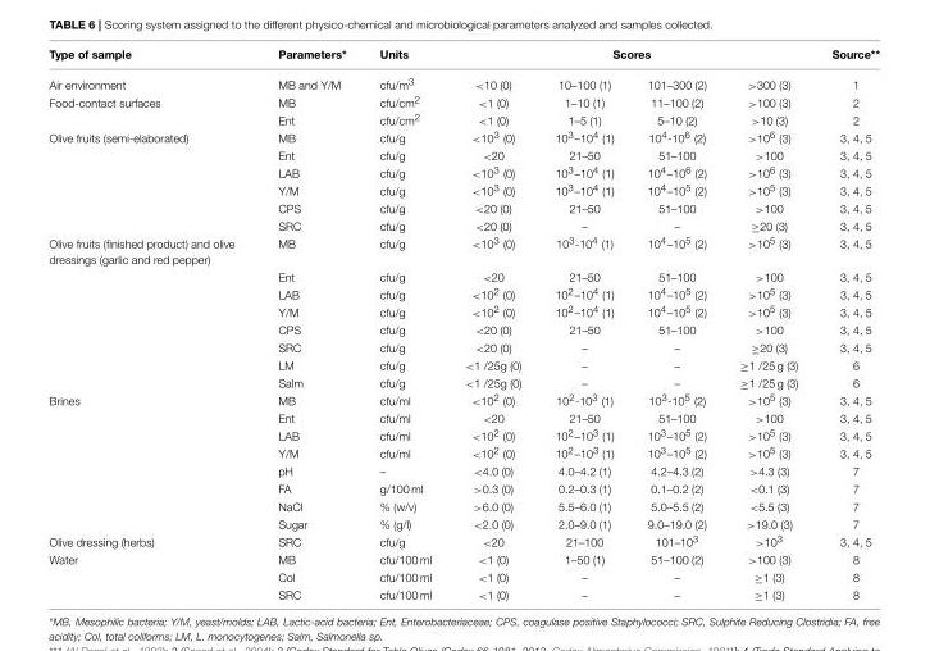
<table><thead><tr><td rowspan="2">Type of sample Air environment</td><td rowspan="2">Parameters* MB and Y/M</td><td rowspan="2">Units cfu/m<sup>3</sup></td><td colspan="4">Scores</td><td rowspan="2">Source** 1</td></tr><tr><td>&lt;10 (0)</td><td>10–100 (1)</td><td>101–300 (2)</td><td>&gt;300 (3)</td></tr></thead><tbody><tr><td rowspan="2">Food-contact surfaces</td><td>MB</td><td>cfu/cm<sup>2</sup></td><td>&lt;1 (0)</td><td>1–10 (1)</td><td>11–100 (2)</td><td>&gt;100 (3)</td><td>2</td></tr><tr><td>Ent</td><td>cfu/cm<sup>2</sup></td><td>&lt;1 (0)</td><td>1–5 (1)</td><td>5–10 (2)</td><td>&gt;10 (3)</td><td>2</td></tr><tr><td rowspan="6">Olive fruits (semi-elaborated)</td><td>MB</td><td>cfu/g</td><td>&lt;10<sup>3</sup> (0)</td><td>10<sup>3</sup>–10<sup>4</sup> (1)</td><td>10<sup>4</sup>-10<sup>6</sup> (2)</td><td>&gt;10<sup>6</sup> (3)</td><td>3, 4, 5</td></tr><tr><td>Ent</td><td>cfu/g</td><td>&lt;20</td><td>21–50</td><td>51–100</td><td>&gt;100</td><td>3, 4, 5</td></tr><tr><td>LAB</td><td>cfu/g</td><td>&lt;10<sup>3</sup> (0)</td><td>10<sup>3</sup>–10<sup>4</sup> (1)</td><td>10<sup>4</sup>–10<sup>6</sup> (2)</td><td>&gt;10<sup>6</sup> (3)</td><td>3, 4, 5</td></tr><tr><td>Y/M</td><td>cfu/g</td><td>&lt;10<sup>3</sup> (0)</td><td>10<sup>3</sup>–10<sup>4</sup> (1)</td><td>10<sup>4</sup>–10<sup>5</sup> (2)</td><td>&gt;10<sup>5</sup> (3)</td><td>3, 4, 5</td></tr><tr><td>CPS</td><td>cfu/g</td><td>&lt;20 (0)</td><td>21–50</td><td>51–100</td><td>&gt;100</td><td>3, 4, 5</td></tr><tr><td>SRC</td><td>cfu/g</td><td>&lt;20 (0)</td><td>–</td><td>–</td><td>≥20 (3)</td><td>3, 4, 5</td></tr><tr><td rowspan="8">Olive fruits (finished product) and olive dressings (garlic and red pepper)</td><td>MB</td><td>cfu/g</td><td>&lt;10<sup>3</sup> (0)</td><td>10<sup>3</sup>-10<sup>4</sup> (1)</td><td>10<sup>4</sup>–10<sup>5</sup> (2)</td><td>&gt;10<sup>5</sup> (3)</td><td>3, 4, 5</td></tr><tr><td>Ent</td><td>cfu/g</td><td>&lt;20</td><td>21–50</td><td>51–100</td><td>&gt;100</td><td>3, 4, 5</td></tr><tr><td>LAB</td><td>cfu/g</td><td>&lt;10<sup>2</sup> (0)</td><td>10<sup>2</sup>–10<sup>4</sup> (1)</td><td>10<sup>4</sup>–10<sup>5</sup> (2)</td><td>&gt;10<sup>5</sup> (3)</td><td>3, 4, 5</td></tr><tr><td>Y/M</td><td>cfu/g</td><td>&lt;10<sup>2</sup> (0)</td><td>10<sup>2</sup>–10<sup>4</sup> (1)</td><td>10<sup>4</sup>–10<sup>5</sup> (2)</td><td>&gt;10<sup>5</sup> (3)</td><td>3, 4, 5</td></tr><tr><td>CPS</td><td>cfu/g</td><td>&lt;20 (0)</td><td>21–50</td><td>51–100</td><td>&gt;100</td><td>3, 4, 5</td></tr><tr><td>SRC</td><td>cfu/g</td><td>&lt;20 (0)</td><td>–</td><td>–</td><td>≥20 (3)</td><td>3, 4, 5</td></tr><tr><td>LM</td><td>cfu/g</td><td>&lt;1 /25g (0)</td><td>–</td><td>–</td><td>≥1 /25 g (3)</td><td>6</td></tr><tr><td>Salm</td><td>cfu/g</td><td>&lt;1 /25g (0)</td><td>–</td><td>–</td><td>≥1 /25 g (3)</td><td>6</td></tr><tr><td rowspan="8">Brines</td><td>MB</td><td>cfu/ml</td><td>&lt;10<sup>2</sup> (0)</td><td>10<sup>2</sup>-10<sup>3</sup> (1)</td><td>10<sup>3</sup>-10<sup>5</sup> (2)</td><td>&gt;10<sup>5</sup> (3)</td><td>3, 4, 5</td></tr><tr><td>Ent</td><td>cfu/ml</td><td>&lt;20</td><td>21–50</td><td>51–100</td><td>&gt;100</td><td>3, 4, 5</td></tr><tr><td>LAB</td><td>cfu/ml</td><td>&lt;10<sup>2</sup> (0)</td><td>10<sup>2</sup>–10<sup>3</sup> (1)</td><td>10<sup>3</sup>–10<sup>5</sup> (2)</td><td>&gt;10<sup>5</sup> (3)</td><td>3, 4, 5</td></tr><tr><td>Y/M</td><td>cfu/ml</td><td>&lt;10<sup>2</sup> (0)</td><td>10<sup>2</sup>–10<sup>3</sup> (1)</td><td>10<sup>3</sup>–10<sup>5</sup> (2)</td><td>&gt;10<sup>5</sup> (3)</td><td>3, 4, 5</td></tr><tr><td>pH</td><td>–</td><td>&lt;4.0 (0)</td><td>4.0–4.2 (1)</td><td>4.2–4.3 (2)</td><td>&gt;4.3 (3)</td><td>7</td></tr><tr><td>FA</td><td>g/100 ml</td><td>&gt;0.3 (0)</td><td>0.2–0.3 (1)</td><td>0.1–0.2 (2)</td><td>&lt;0.1 (3)</td><td>7</td></tr><tr><td>NaCl</td><td>% (w/v)</td><td>&gt;6.0 (0)</td><td>5.5–6.0 (1)</td><td>5.0–5.5 (2)</td><td>&lt;5.5 (3)</td><td>7</td></tr><tr><td>Sugar</td><td>% (g/l)</td><td>&lt;2.0 (0)</td><td>2.0–9.0 (1)</td><td>9.0–19.0 (2)</td><td>&gt;19.0 (3)</td><td>7</td></tr><tr><td>Olive dressing (herbs)</td><td>SRC</td><td>cfu/g</td><td>&lt;20</td><td>21–100</td><td>101–10<sup>3</sup></td><td>&gt;10<sup>3</sup></td><td>3, 4, 5</td></tr><tr><td rowspan="3">Water</td><td>MB</td><td>cfu/100 ml</td><td>&lt;1 (0)</td><td>1–50 (1)</td><td>51–100 (2)</td><td>&gt;100 (3)</td><td>8</td></tr><tr><td>Col</td><td>cfu/100 ml</td><td>&lt;1 (0)</td><td>–</td><td>–</td><td>≥1 (3)</td><td>8</td></tr><tr><td>SRC</td><td>cfu/100 ml</td><td>&lt;1 (0)</td><td>–</td><td>–</td><td>≥1 (3)</td><td>8</td></tr></tbody></table>